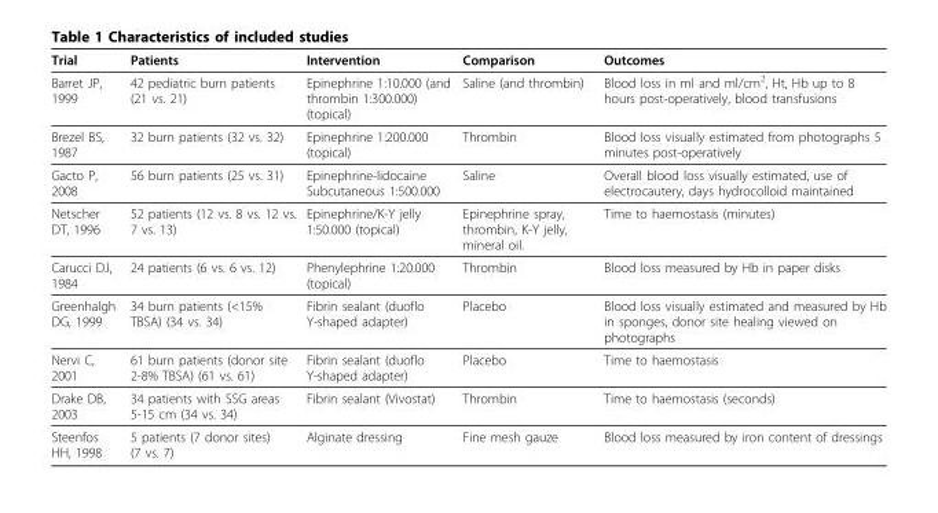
<table><thead><tr><td>Trial</td><td>Patients</td><td>Intervention</td><td>Comparison</td><td>Outcomes</td></tr></thead><tbody><tr><td>Barret JP, 1999</td><td>42 pediatric burn patients (21 vs. 21)</td><td>Epinephrine 1:10.000 (and thrombin 1:300.000) (topical)</td><td>Saline (and thrombin)</td><td>Blood loss in ml and ml/cm<sup>2</sup>, Ht, Hb up to 8 hours post-operatively, blood transfusions</td></tr><tr><td>Brezel BS, 1987</td><td>32 burn patients (32 vs. 32)</td><td>Epinephrine 1:200.000 (topical)</td><td>Thrombin</td><td>Blood loss visually estimated from photographs 5 minutes post-operatively</td></tr><tr><td>Gacto P, 2008</td><td>56 burn patients (25 vs. 31)</td><td>Epinephrine-lidocaine Subcutaneous 1:500.000</td><td>Saline</td><td>Overall blood loss visually estimated, use of electrocautery, days hydrocolloid maintained</td></tr><tr><td>Netscher DT, 1996</td><td>52 patients (12 vs. 8 vs. 12 vs. 7 vs. 13)</td><td>Epinephrine/K-Y jelly 1:50.000 (topical)</td><td>Epinephrine spray, thrombin, K-Y jelly, mineral oil.</td><td>Time to haemostasis (minutes)</td></tr><tr><td>Carucci DJ, 1984</td><td>24 patients (6 vs. 6 vs. 12)</td><td>Phenylephrine 1:20.000 (topical)</td><td>Thrombin</td><td>Blood loss measured by Hb in paper disks</td></tr><tr><td>Greenhalgh DG, 1999</td><td>34 burn patients (&lt;15% TBSA) (34 vs. 34)</td><td>Fibrin sealant (duoflo Y-shaped adapter)</td><td>Placebo</td><td>Blood loss visually estimated and measured by Hb in sponges, donor site healing viewed on photographs</td></tr><tr><td>Nervi C, 2001</td><td>61 burn patients (donor site 2-8% TBSA) (61 vs. 61)</td><td>Fibrin sealant (duoflo Y-shaped adapter)</td><td>Placebo</td><td>Time to haemostasis</td></tr><tr><td>Drake DB, 2003</td><td>34 patients with SSG areas 5-15 cm (34 vs. 34)</td><td>Fibrin sealant (Vivostat)</td><td>Thrombin</td><td>Time to haemostasis (seconds)</td></tr><tr><td>Steenfos HH, 1998</td><td>5 patients (7 donor sites) (7 vs. 7)</td><td>Alginate dressing</td><td>Fine mesh gauze</td><td>Blood loss measured by iron content of dressings</td></tr></tbody></table>